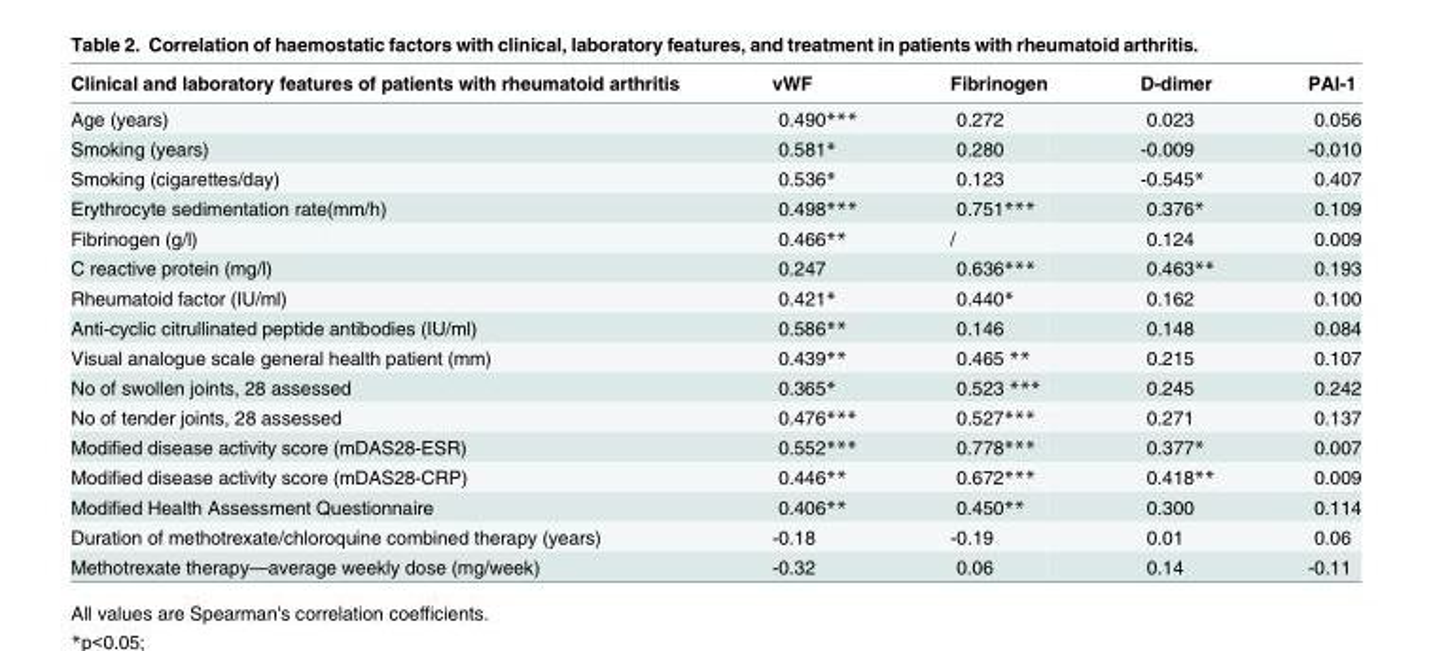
<table><thead><tr><td>Clinical and laboratory features of patients with rheumatoid arthritis</td><td>vWF</td><td>Fibrinogen</td><td>D-dimer</td><td>PAI-1</td></tr></thead><tbody><tr><td>Age (years)</td><td>0.490***</td><td>0.272</td><td>0.023</td><td>0.056</td></tr><tr><td>Smoking (years)</td><td>0.581*</td><td>0.280</td><td>-0.009</td><td>-0.010</td></tr><tr><td>Smoking (cigarettes/day)</td><td>0.536*</td><td>0.123</td><td>-0.545*</td><td>0.407</td></tr><tr><td>Erythrocyte sedimentation rate(mm/h)</td><td>0.498***</td><td>0.751***</td><td>0.376*</td><td>0.109</td></tr><tr><td>Fibrinogen (g/l)</td><td>0.466**</td><td>/</td><td>0.124</td><td>0.009</td></tr><tr><td>C reactive protein (mg/l)</td><td>0.247</td><td>0.636***</td><td>0.463**</td><td>0.193</td></tr><tr><td>Rheumatoid factor (IU/ml)</td><td>0.421*</td><td>0.440*</td><td>0.162</td><td>0.100</td></tr><tr><td>Anti-cyclic citrullinated peptide antibodies (IU/ml)</td><td>0.586**</td><td>0.146</td><td>0.148</td><td>0.084</td></tr><tr><td>Visual analogue scale general health patient (mm)</td><td>0.439**</td><td>0.465 **</td><td>0.215</td><td>0.107</td></tr><tr><td>No of swollen joints, 28 assessed</td><td>0.365*</td><td>0.523 ***</td><td>0.245</td><td>0.242</td></tr><tr><td>No of tender joints, 28 assessed</td><td>0.476***</td><td>0.527***</td><td>0.271</td><td>0.137</td></tr><tr><td>Modified disease activity score (mDAS28-ESR)</td><td>0.552***</td><td>0.778***</td><td>0.377*</td><td>0.007</td></tr><tr><td>Modified disease activity score (mDAS28-CRP)</td><td>0.446**</td><td>0.672***</td><td>0.418**</td><td>0.009</td></tr><tr><td>Modified Health Assessment Questionnaire</td><td>0.406**</td><td>0.450**</td><td>0.300</td><td>0.114</td></tr><tr><td>Duration of methotrexate/chloroquine combined therapy (years)</td><td>-0.18</td><td>-0.19</td><td>0.01</td><td>0.06</td></tr><tr><td>Methotrexate therapy—average weekly dose (mg/week)</td><td>-0.32</td><td>0.06</td><td>0.14</td><td>-0.11</td></tr></tbody></table>